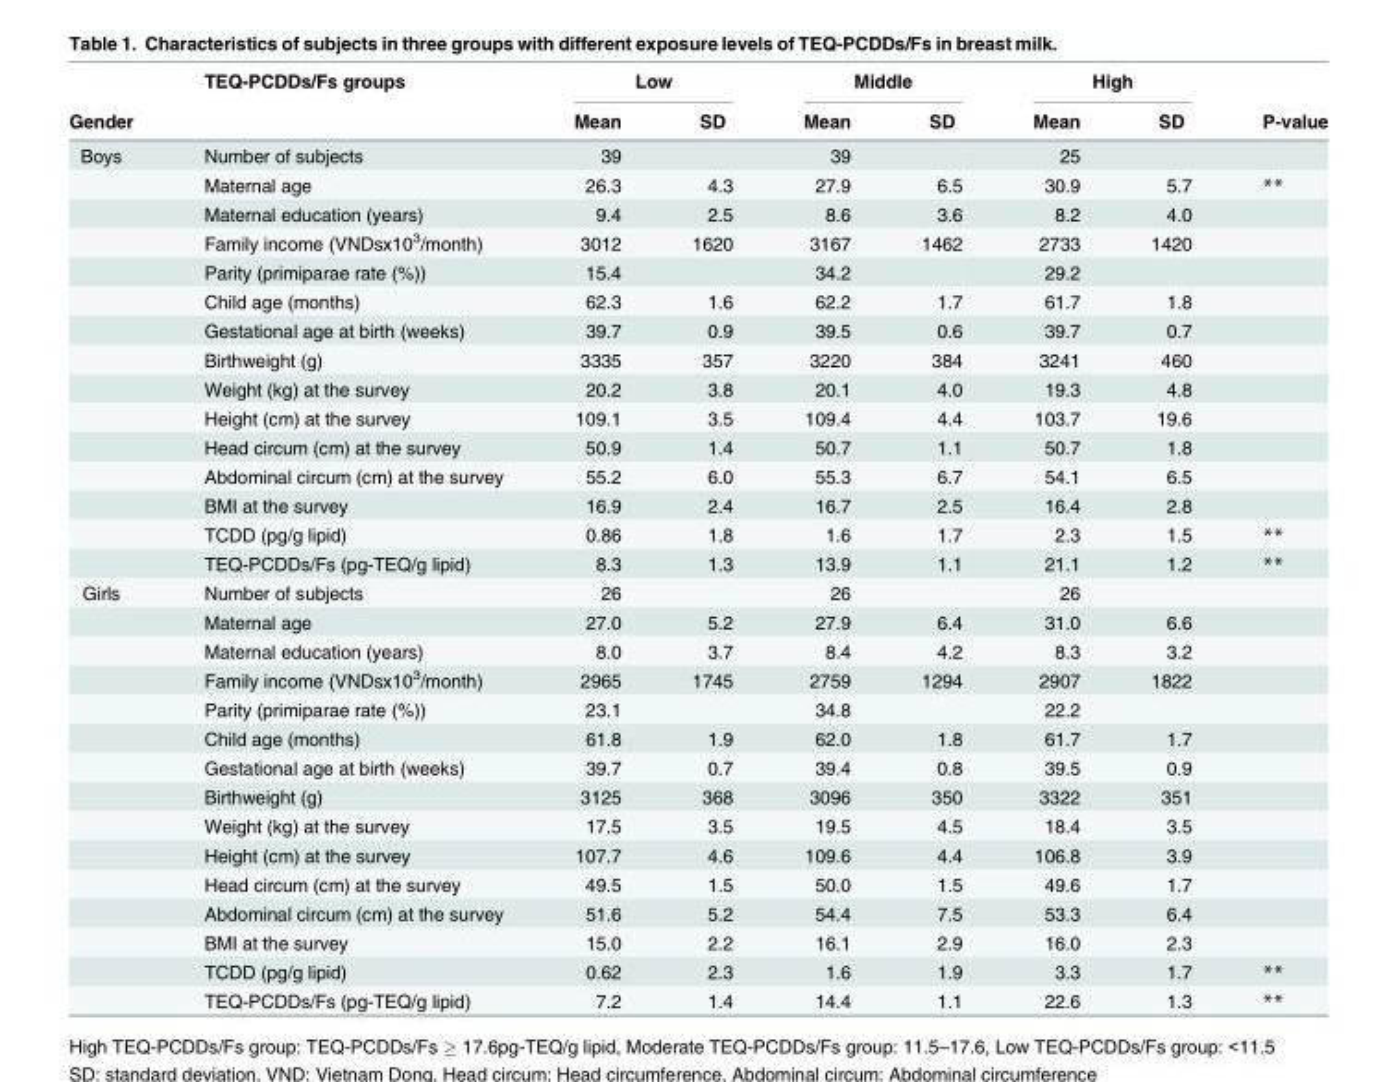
<table><thead><tr><td rowspan="2">Gender</td><td rowspan="2">TEQ-PCDDs/Fs groups</td><td colspan="2">Low</td><td colspan="2">Middle</td><td colspan="2">High</td><td rowspan="2">P-value</td></tr><tr><td>Mean</td><td>SD</td><td>Mean</td><td>SD</td><td>Mean</td><td>SD</td></tr></thead><tbody><tr><td rowspan="15">Boys</td><td>Number of subjects</td><td>39</td><td></td><td>39</td><td></td><td>25</td><td></td><td></td></tr><tr><td>Maternal age</td><td>26.3</td><td>4.3</td><td>27.9</td><td>6.5</td><td>30.9</td><td>5.7</td><td>**</td></tr><tr><td>Maternal education (years)</td><td>9.4</td><td>2.5</td><td>8.6</td><td>3.6</td><td>8.2</td><td>4.0</td><td></td></tr><tr><td>Family income (VNDsx10<sup>3</sup>/month)</td><td>3012</td><td>1620</td><td>3167</td><td>1462</td><td>2733</td><td>1420</td><td></td></tr><tr><td>Parity (primiparae rate (%))</td><td>15.4</td><td></td><td>34.2</td><td></td><td>29.2</td><td></td><td></td></tr><tr><td>Child age (months)</td><td>62.3</td><td>1.6</td><td>62.2</td><td>1.7</td><td>61.7</td><td>1.8</td><td></td></tr><tr><td>Gestational age at birth (weeks)</td><td>39.7</td><td>0.9</td><td>39.5</td><td>0.6</td><td>39.7</td><td>0.7</td><td></td></tr><tr><td>Birthweight (g)</td><td>3335</td><td>357</td><td>3220</td><td>384</td><td>3241</td><td>460</td><td></td></tr><tr><td>Weight (kg) at the survey</td><td>20.2</td><td>3.8</td><td>20.1</td><td>4.0</td><td>19.3</td><td>4.8</td><td></td></tr><tr><td>Height (cm) at the survey</td><td>109.1</td><td>3.5</td><td>109.4</td><td>4.4</td><td>103.7</td><td>19.6</td><td></td></tr><tr><td>Head circum (cm) at the survey</td><td>50.9</td><td>1.4</td><td>50.7</td><td>1.1</td><td>50.7</td><td>1.8</td><td></td></tr><tr><td>Abdominal circum (cm) at the survey</td><td>55.2</td><td>6.0</td><td>55.3</td><td>6.7</td><td>54.1</td><td>6.5</td><td></td></tr><tr><td>BMI at the survey</td><td>16.9</td><td>2.4</td><td>16.7</td><td>2.5</td><td>16.4</td><td>2.8</td><td></td></tr><tr><td>TCDD (pg/g lipid)</td><td>0.86</td><td>1.8</td><td>1.6</td><td>1.7</td><td>2.3</td><td>1.5</td><td>**</td></tr><tr><td>TEQ-PCDDs/Fs (pg-TEQ/g lipid)</td><td>8.3</td><td>1.3</td><td>13.9</td><td>1.1</td><td>21.1</td><td>1.2</td><td>**</td></tr><tr><td rowspan="15">Girls</td><td>Number of subjects</td><td>26</td><td></td><td>26</td><td></td><td>26</td><td></td><td></td></tr><tr><td>Maternal age</td><td>27.0</td><td>5.2</td><td>27.9</td><td>6.4</td><td>31.0</td><td>6.6</td><td></td></tr><tr><td>Maternal education (years)</td><td>8.0</td><td>3.7</td><td>8.4</td><td>4.2</td><td>8.3</td><td>3.2</td><td></td></tr><tr><td>Family income (VNDsx10<sup>3</sup>/month)</td><td>2965</td><td>1745</td><td>2759</td><td>1294</td><td>2907</td><td>1822</td><td></td></tr><tr><td>Parity (primiparae rate (%))</td><td>23.1</td><td></td><td>34.8</td><td></td><td>22.2</td><td></td><td></td></tr><tr><td>Child age (months)</td><td>61.8</td><td>1.9</td><td>62.0</td><td>1.8</td><td>61.7</td><td>1.7</td><td></td></tr><tr><td>Gestational age at birth (weeks)</td><td>39.7</td><td>0.7</td><td>39.4</td><td>0.8</td><td>39.5</td><td>0.9</td><td></td></tr><tr><td>Birthweight (g)</td><td>3125</td><td>368</td><td>3096</td><td>350</td><td>3322</td><td>351</td><td></td></tr><tr><td>Weight (kg) at the survey</td><td>17.5</td><td>3.5</td><td>19.5</td><td>4.5</td><td>18.4</td><td>3.5</td><td></td></tr><tr><td>Height (cm) at the survey</td><td>107.7</td><td>4.6</td><td>109.6</td><td>4.4</td><td>106.8</td><td>3.9</td><td></td></tr><tr><td>Head circum (cm) at the survey</td><td>49.5</td><td>1.5</td><td>50.0</td><td>1.5</td><td>49.6</td><td>1.7</td><td></td></tr><tr><td>Abdominal circum (cm) at the survey</td><td>51.6</td><td>5.2</td><td>54.4</td><td>7.5</td><td>53.3</td><td>6.4</td><td></td></tr><tr><td>BMI at the survey</td><td>15.0</td><td>2.2</td><td>16.1</td><td>2.9</td><td>16.0</td><td>2.3</td><td></td></tr><tr><td>TCDD (pg/g lipid)</td><td>0.62</td><td>2.3</td><td>1.6</td><td>1.9</td><td>3.3</td><td>1.7</td><td>**</td></tr><tr><td>TEQ-PCDDs/Fs (pg-TEQ/g lipid)</td><td>7.2</td><td>1.4</td><td>14.4</td><td>1.1</td><td>22.6</td><td>1.3</td><td>**</td></tr></tbody></table>